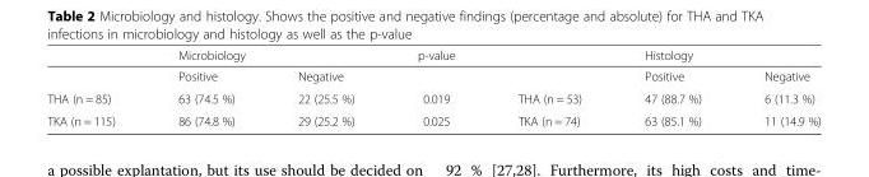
<table><thead><tr><td rowspan="2"></td><td colspan="2">Microbiology</td><td rowspan="2">p-value</td><td rowspan="2"></td><td colspan="2">Histology</td></tr><tr><td>Positive</td><td>Negative</td><td>Positive</td><td>Negative</td></tr></thead><tbody><tr><td>THA (n = 85)</td><td>63 (74.5 %)</td><td>22 (25.5 %)</td><td>0.019</td><td>THA (n = 53)</td><td>47 (88.7 %)</td><td>6 (11.3 %)</td></tr><tr><td>TKA (n = 115)</td><td>86 (74.8 %)</td><td>29 (25.2 %)</td><td>0.025</td><td>TKA (n = 74)</td><td>63 (85.1 %)</td><td>11 (14.9 %)</td></tr></tbody></table>